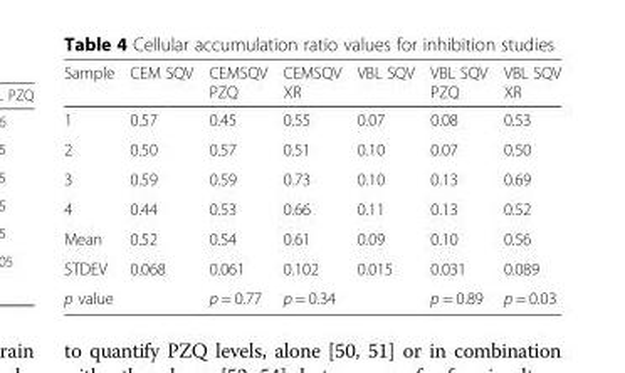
<table><thead><tr><td>Sample</td><td>CEM SQV</td><td>CEMSQV PZQ</td><td>CEMSQV XR</td><td>VBL SQV</td><td>VBL SQV PZQ</td><td>VBL SQV XR</td></tr></thead><tbody><tr><td>1</td><td>0.57</td><td>0.45</td><td>0.55</td><td>0.07</td><td>0.08</td><td>0.53</td></tr><tr><td>2</td><td>0.50</td><td>0.57</td><td>0.51</td><td>0.10</td><td>0.07</td><td>0.50</td></tr><tr><td>3</td><td>0.59</td><td>0.59</td><td>0.73</td><td>0.10</td><td>0.13</td><td>0.69</td></tr><tr><td>4</td><td>0.44</td><td>0.53</td><td>0.66</td><td>0.11</td><td>0.13</td><td>0.52</td></tr><tr><td>Mean</td><td>0.52</td><td>0.54</td><td>0.61</td><td>0.09</td><td>0.10</td><td>0.56</td></tr><tr><td>STDEV</td><td>0.068</td><td>0.061</td><td>0.102</td><td>0.015</td><td>0.031</td><td>0.089</td></tr><tr><td>p value</td><td></td><td>p = 0.77</td><td>p = 0.34</td><td></td><td>p = 0.89</td><td>p = 0.03</td></tr></tbody></table>